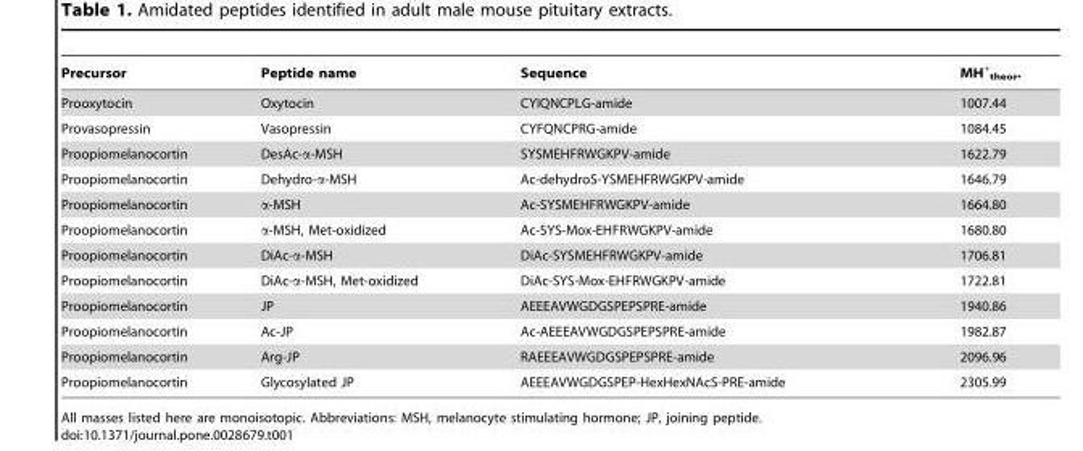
<table><thead><tr><td>Precursor</td><td>Peptide name</td><td>Sequence</td><td>MH<sup>+</sup> <sub>theor</sub>.</td></tr></thead><tbody><tr><td>Prooxytocin</td><td>Oxytocin</td><td>CYIQNCPLG-amide</td><td>1007.44</td></tr><tr><td>Provasopressin</td><td>Vasopressin</td><td>CYFQNCPRG-amide</td><td>1084.45</td></tr><tr><td>Proopiomelanocortin</td><td>DesAc-α-MSH</td><td>SYSMEHFRWGKPV-amide</td><td>1622.79</td></tr><tr><td>Proopiomelanocortin</td><td>Dehydro-α-MSH</td><td>Ac-dehydroS-YSMEHFRWGKPV-amide</td><td>1646.79</td></tr><tr><td>Proopiomelanocortin</td><td>α-MSH</td><td>Ac-SYSMEHFRWGKPV-amide</td><td>1664.80</td></tr><tr><td>Proopiomelanocortin</td><td>α-MSH, Met-oxidized</td><td>Ac-SYS-Mox-EHFRWGKPV-amide</td><td>1680.80</td></tr><tr><td>Proopiomelanocortin</td><td>DiAc-α-MSH</td><td>DiAc-SYSMEHFRWGKPV-amide</td><td>1706.81</td></tr><tr><td>Proopiomelanocortin</td><td>DiAc-α-MSH, Met-oxidized</td><td>DiAc-SYS-Mox-EHFRWGKPV-amide</td><td>1722.81</td></tr><tr><td>Proopiomelanocortin</td><td>JP</td><td>AEEEAVWGDGSPEPSPRE-amide</td><td>1940.86</td></tr><tr><td>Proopiomelanocortin</td><td>Ac-JP</td><td>Ac-AEEEAVWGDGSPEPSPRE-amide</td><td>1982.87</td></tr><tr><td>Proopiomelanocortin</td><td>Arg-JP</td><td>RAEEEAVWGDGSPEPSPRE-amide</td><td>2096.96</td></tr><tr><td>Proopiomelanocortin</td><td>Glycosylated JP</td><td>AEEEAVWGDGSPEP-HexHexNAcS-PRE-amide</td><td>2305.99</td></tr></tbody></table>